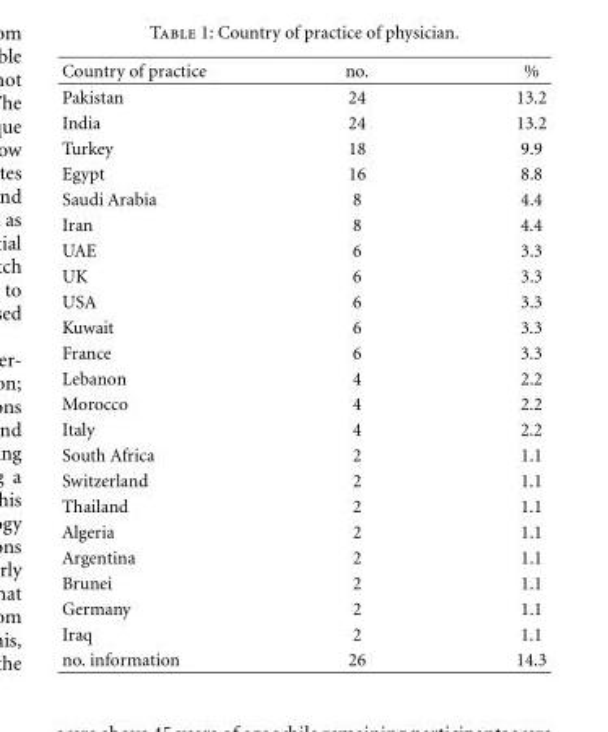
<table><thead><tr><td>Country of practice</td><td>no.</td><td>%</td></tr></thead><tbody><tr><td>Pakistan</td><td>24</td><td>13.2</td></tr><tr><td>India</td><td>24</td><td>13.2</td></tr><tr><td>Turkey</td><td>18</td><td>9.9</td></tr><tr><td>Egypt</td><td>16</td><td>8.8</td></tr><tr><td>Saudi Arabia</td><td>8</td><td>4.4</td></tr><tr><td>Iran</td><td>8</td><td>4.4</td></tr><tr><td>UAE</td><td>6</td><td>3.3</td></tr><tr><td>UK</td><td>6</td><td>3.3</td></tr><tr><td>USA</td><td>6</td><td>3.3</td></tr><tr><td>Kuwait</td><td>6</td><td>3.3</td></tr><tr><td>France</td><td>6</td><td>3.3</td></tr><tr><td>Lebanon</td><td>4</td><td>2.2</td></tr><tr><td>Morocco</td><td>4</td><td>2.2</td></tr><tr><td>Italy</td><td>4</td><td>2.2</td></tr><tr><td>South Africa</td><td>2</td><td>1.1</td></tr><tr><td>Switzerland</td><td>2</td><td>1.1</td></tr><tr><td>Thailand</td><td>2</td><td>1.1</td></tr><tr><td>Algeria</td><td>2</td><td>1.1</td></tr><tr><td>Argentina</td><td>2</td><td>1.1</td></tr><tr><td>Brunei</td><td>2</td><td>1.1</td></tr><tr><td>Germany</td><td>2</td><td>1.1</td></tr><tr><td>Iraq</td><td>2</td><td>1.1</td></tr><tr><td>no. information</td><td>26</td><td>14.3</td></tr></tbody></table>